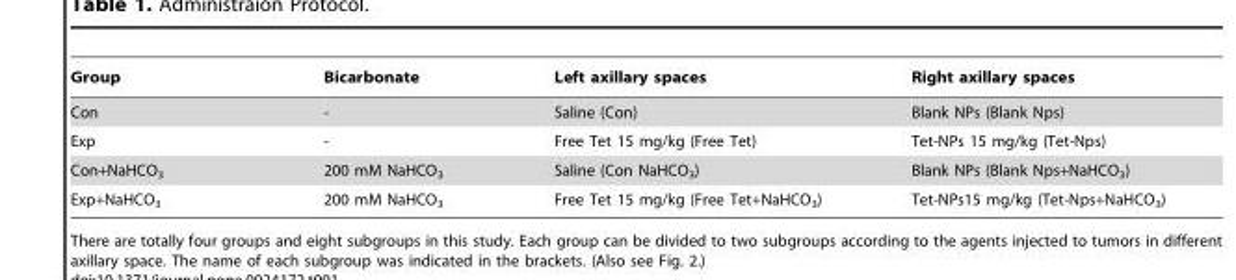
<table><thead><tr><td>Group</td><td>Bicarbonate</td><td>Left axillary spaces</td><td>Right axillary spaces</td></tr></thead><tbody><tr><td>Con</td><td>-</td><td>Saline (Con)</td><td>Blank NPs (Blank Nps)</td></tr><tr><td>Exp</td><td>-</td><td>Free Tet 15 mg/kg (Free Tet)</td><td>Tet-NPs 15 mg/kg (Tet-Nps)</td></tr><tr><td>Con+NaHCO<sub>3</sub></td><td>200 mM NaHCO<sub>3</sub></td><td>Saline (Con NaHCO<sub>3</sub>)</td><td>Blank NPs (Blank Nps+NaHCO<sub>3</sub>)</td></tr><tr><td>Exp+NaHCO<sub>3</sub></td><td>200 mM NaHCO<sub>3</sub></td><td>Free Tet 15 mg/kg (Free Tet+NaHCO<sub>3</sub>)</td><td>Tet-NPs15 mg/kg (Tet-Nps+NaHCO<sub>3</sub>)</td></tr></tbody></table>